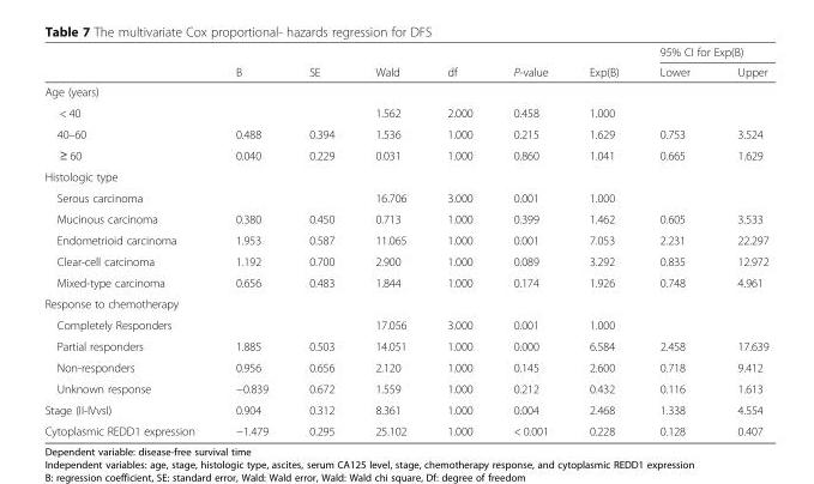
<table><thead><tr><td rowspan="2"></td><td rowspan="2">B</td><td rowspan="2">SE</td><td rowspan="2">Wald</td><td rowspan="2">df</td><td rowspan="2">P-value</td><td rowspan="2">Exp(B)</td><td colspan="2">95% CI for Exp(B)</td></tr><tr><td>Lower</td><td>Upper</td></tr></thead><tbody><tr><td colspan="9">Age (years)</td></tr><tr><td>&lt; 40</td><td></td><td></td><td>1.562</td><td>2.000</td><td>0.458</td><td>1.000</td><td></td><td></td></tr><tr><td>40–60</td><td>0.488</td><td>0.394</td><td>1.536</td><td>1.000</td><td>0.215</td><td>1.629</td><td>0.753</td><td>3.524</td></tr><tr><td>≥ 60</td><td>0.040</td><td>0.229</td><td>0.031</td><td>1.000</td><td>0.860</td><td>1.041</td><td>0.665</td><td>1.629</td></tr><tr><td colspan="9">Histologic type</td></tr><tr><td>Serous carcinoma</td><td></td><td></td><td>16.706</td><td>3.000</td><td>0.001</td><td>1.000</td><td></td><td></td></tr><tr><td>Mucinous carcinoma</td><td>0.380</td><td>0.450</td><td>0.713</td><td>1.000</td><td>0.399</td><td>1.462</td><td>0.605</td><td>3.533</td></tr><tr><td>Endometrioid carcinoma</td><td>1.953</td><td>0.587</td><td>11.065</td><td>1.000</td><td>0.001</td><td>7.053</td><td>2.231</td><td>22.297</td></tr><tr><td>Clear-cell carcinoma</td><td>1.192</td><td>0.700</td><td>2.900</td><td>1.000</td><td>0.089</td><td>3.292</td><td>0.835</td><td>12.972</td></tr><tr><td>Mixed-type carcinoma</td><td>0.656</td><td>0.483</td><td>1.844</td><td>1.000</td><td>0.174</td><td>1.926</td><td>0.748</td><td>4.961</td></tr><tr><td colspan="9">Response to chemotherapy</td></tr><tr><td>Completely Responders</td><td></td><td></td><td>17.056</td><td>3.000</td><td>0.001</td><td>1.000</td><td></td><td></td></tr><tr><td>Partial responders</td><td>1.885</td><td>0.503</td><td>14.051</td><td>1.000</td><td>0.000</td><td>6.584</td><td>2.458</td><td>17.639</td></tr><tr><td>Non-responders</td><td>0.956</td><td>0.656</td><td>2.120</td><td>1.000</td><td>0.145</td><td>2.600</td><td>0.718</td><td>9.412</td></tr><tr><td>Unknown response</td><td>−0.839</td><td>0.672</td><td>1.559</td><td>1.000</td><td>0.212</td><td>0.432</td><td>0.116</td><td>1.613</td></tr><tr><td>Stage (II-IVvsI)</td><td>0.904</td><td>0.312</td><td>8.361</td><td>1.000</td><td>0.004</td><td>2.468</td><td>1.338</td><td>4.554</td></tr><tr><td>Cytoplasmic REDD1 expression</td><td>−1.479</td><td>0.295</td><td>25.102</td><td>1.000</td><td>&lt; 0.001</td><td>0.228</td><td>0.128</td><td>0.407</td></tr></tbody></table>